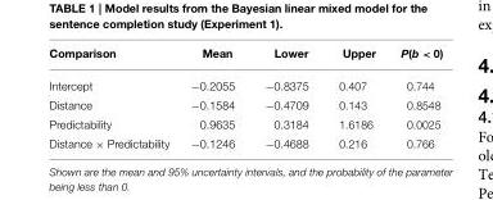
<table><thead><tr><td>Comparison</td><td>Mean</td><td>Lower</td><td>Upper</td><td>P(b &lt; 0)</td></tr></thead><tbody><tr><td>Intercept</td><td>−0.2055</td><td>−0.8375</td><td>0.407</td><td>0.744</td></tr><tr><td>Distance</td><td>−0.1584</td><td>−0.4709</td><td>0.143</td><td>0.8548</td></tr><tr><td>Predictability</td><td>0.9635</td><td>0.3184</td><td>1.6186</td><td>0.0025</td></tr><tr><td>Distance × Predictability</td><td>−0.1246</td><td>−0.4688</td><td>0.216</td><td>0.766</td></tr></tbody></table>